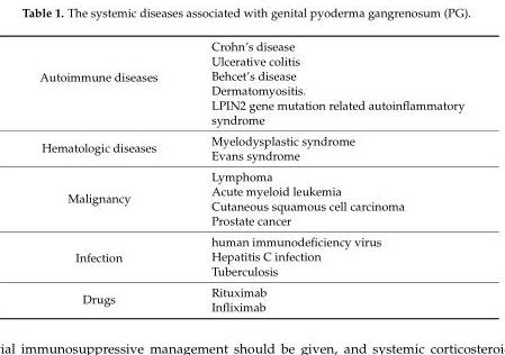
<table><tbody><tr><td rowspan="5">Autoimmune diseases</td><td>Crohn’s disease</td></tr><tr><td>Ulcerative colitis</td></tr><tr><td>Behcet’s disease</td></tr><tr><td>Dermatomyositis.</td></tr><tr><td>LPIN2 gene mutation related autoinflammatory syndrome</td></tr><tr><td rowspan="2">Hematologic diseases</td><td>Myelodysplastic syndrome</td></tr><tr><td>Evans syndrome</td></tr><tr><td rowspan="4">Malignancy</td><td>Lymphoma</td></tr><tr><td>Acute myeloid leukemia</td></tr><tr><td>Cutaneous squamous cell carcinoma</td></tr><tr><td>Prostate cancer</td></tr><tr><td rowspan="3">Infection</td><td>human immunodeficiency virus</td></tr><tr><td>Hepatitis C infection</td></tr><tr><td>Tuberculosis</td></tr><tr><td rowspan="2">Drugs</td><td>Rituximab</td></tr><tr><td>Infliximab</td></tr></tbody></table>